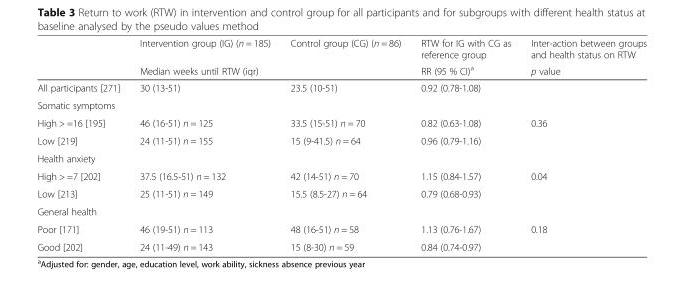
<table><thead><tr><td rowspan="2"></td><td>Intervention group (IG) (n = 185)</td><td>Control group (CG) (n = 86)</td><td rowspan="2">RTW for IG with CG as reference group RR (95 % CI)<sup>a</sup></td><td rowspan="2">Inter-action between groups and health status on RTW p value</td></tr><tr><td colspan="2">Median weeks until RTW (iqr)</td></tr></thead><tbody><tr><td>All participants [271]</td><td>30 (13-51)</td><td>23.5 (10-51)</td><td>0.92 (0.78-1.08)</td><td></td></tr><tr><td colspan="5">Somatic symptoms</td></tr><tr><td>High &gt; =16 [195]</td><td>46 (16-51) n = 125</td><td>33.5 (15-51) n = 70</td><td>0.82 (0.63-1.08)</td><td rowspan="2">0.36</td></tr><tr><td>Low [219]</td><td>24 (11-51) n = 155</td><td>15 (9-41.5) n = 64</td><td>0.96 (0.79-1.16)</td></tr><tr><td colspan="5">Health anxiety</td></tr><tr><td>High &gt; =7 [202]</td><td>37.5 (16.5-51) n = 132</td><td>42 (14-51) n = 70</td><td>1.15 (0.84-1.57)</td><td rowspan="2">0.04</td></tr><tr><td>Low [213]</td><td>25 (11-51) n = 149</td><td>15.5 (8.5-27) n = 64</td><td>0.79 (0.68-0.93)</td></tr><tr><td colspan="5">General health</td></tr><tr><td>Poor [171]</td><td>46 (19-51) n = 113</td><td>48 (16-51) n = 58</td><td>1.13 (0.76-1.67)</td><td rowspan="2">0.18</td></tr><tr><td>Good [202]</td><td>24 (11-49) n = 143</td><td>15 (8-30) n = 59</td><td>0.84 (0.74-0.97)</td></tr></tbody></table>